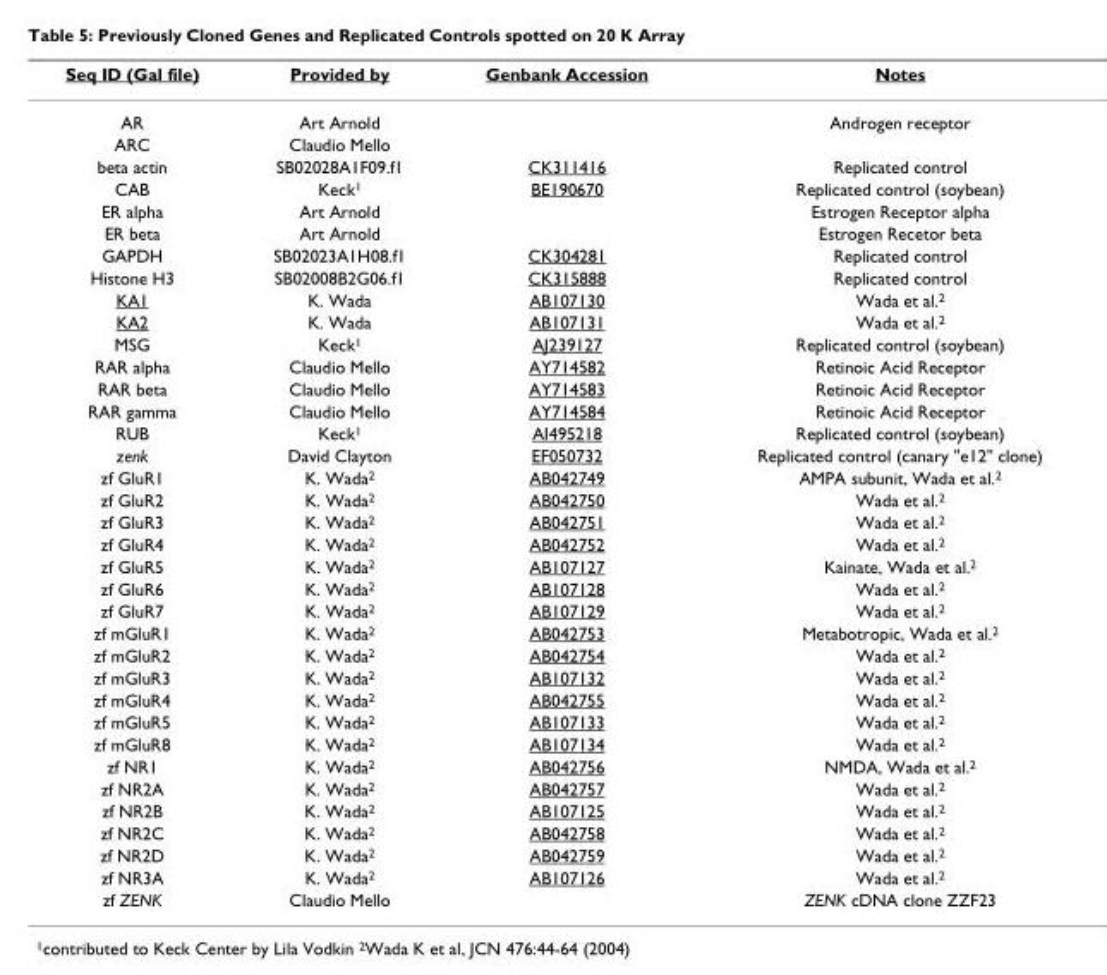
<table><thead><tr><td>Seq ID (Gal file)</td><td>Provided by</td><td>Genbank Accession</td><td>Notes</td></tr></thead><tbody><tr><td>AR</td><td>Art Arnold</td><td></td><td>Androgen receptor</td></tr><tr><td>ARC</td><td>Claudio Mello</td><td></td><td></td></tr><tr><td>beta actin</td><td>SB02028A1F09.f1</td><td>CK311416</td><td>Replicated control</td></tr><tr><td>CAB</td><td>Keck<sup>1</sup></td><td>BE190670</td><td>Replicated control (soybean)</td></tr><tr><td>ER alpha</td><td>Art Arnold</td><td></td><td>Estrogen Receptor alpha</td></tr><tr><td>ER beta</td><td>Art Arnold</td><td></td><td>Estrogen Recetor beta</td></tr><tr><td>GAPDH</td><td>SB02023A1H08.f1</td><td>CK304281</td><td>Replicated control</td></tr><tr><td>Histone H3</td><td>SB02008B2G06.f1</td><td>CK315888</td><td>Replicated control</td></tr><tr><td>KA1</td><td>K. Wada</td><td>AB107130</td><td>Wada et al.<sup>2</sup></td></tr><tr><td>KA2</td><td>K. Wada</td><td>AB107131</td><td>Wada et al.<sup>2</sup></td></tr><tr><td>MSG</td><td>Keck<sup>1</sup></td><td>AJ239127</td><td>Replicated control (soybean)</td></tr><tr><td>RAR alpha</td><td>Claudio Mello</td><td>AY714582</td><td>Retinoic Acid Receptor</td></tr><tr><td>RAR beta</td><td>Claudio Mello</td><td>AY714583</td><td>Retinoic Acid Receptor</td></tr><tr><td>RAR gamma</td><td>Claudio Mello</td><td>AY714584</td><td>Retinoic Acid Receptor</td></tr><tr><td>RUB</td><td>Keck<sup>1</sup></td><td>AI495218</td><td>Replicated control (soybean)</td></tr><tr><td>zenk</td><td>David Clayton</td><td>EF050732</td><td>Replicated control (canary &quot;e12&quot; clone)</td></tr><tr><td>zf GluR1</td><td>K. Wada<sup>2</sup></td><td>AB042749</td><td>AMPA subunit, Wada et al.<sup>2</sup></td></tr><tr><td>zf GluR2</td><td>K. Wada<sup>2</sup></td><td>AB042750</td><td>Wada et al.<sup>2</sup></td></tr><tr><td>zf GluR3</td><td>K. Wada<sup>2</sup></td><td>AB042751</td><td>Wada et al.<sup>2</sup></td></tr><tr><td>zf GluR4</td><td>K. Wada<sup>2</sup></td><td>AB042752</td><td>Wada et al.<sup>2</sup></td></tr><tr><td>zf GluR5</td><td>K. Wada<sup>2</sup></td><td>AB107127</td><td>Kainate, Wada et al.<sup>2</sup></td></tr><tr><td>zf GluR6</td><td>K. Wada<sup>2</sup></td><td>AB107128</td><td>Wada et al.<sup>2</sup></td></tr><tr><td>zf GluR7</td><td>K. Wada<sup>2</sup></td><td>AB107129</td><td>Wada et al.<sup>2</sup></td></tr><tr><td>zf mGluR1</td><td>K. Wada<sup>2</sup></td><td>AB042753</td><td>Metabotropic, Wada et al.<sup>2</sup></td></tr><tr><td>zf mGluR2</td><td>K. Wada<sup>2</sup></td><td>AB042754</td><td>Wada et al.<sup>2</sup></td></tr><tr><td>zf mGluR3</td><td>K. Wada<sup>2</sup></td><td>AB107132</td><td>Wada et al.<sup>2</sup></td></tr><tr><td>zf mGluR4</td><td>K. Wada<sup>2</sup></td><td>AB042755</td><td>Wada et al.<sup>2</sup></td></tr><tr><td>zf mGluR5</td><td>K. Wada<sup>2</sup></td><td>AB107133</td><td>Wada et al.<sup>2</sup></td></tr><tr><td>zf mGluR8</td><td>K. Wada<sup>2</sup></td><td>AB107134</td><td>Wada et al.<sup>2</sup></td></tr><tr><td>zf NR1</td><td>K. Wada<sup>2</sup></td><td>AB042756</td><td>NMDA, Wada et al.<sup>2</sup></td></tr><tr><td>zf NR2A</td><td>K. Wada<sup>2</sup></td><td>AB042757</td><td>Wada et al.<sup>2</sup></td></tr><tr><td>zf NR2B</td><td>K. Wada<sup>2</sup></td><td>AB107125</td><td>Wada et al.<sup>2</sup></td></tr><tr><td>zf NR2C</td><td>K. Wada<sup>2</sup></td><td>AB042758</td><td>Wada et al.<sup>2</sup></td></tr><tr><td>zf NR2D</td><td>K. Wada<sup>2</sup></td><td>AB042759</td><td>Wada et al.<sup>2</sup></td></tr><tr><td>zf NR3A</td><td>K. Wada<sup>2</sup></td><td>AB107126</td><td>Wada et al.<sup>2</sup></td></tr><tr><td>zf ZENK</td><td>Claudio Mello</td><td></td><td>ZENK cDNA clone ZZF23</td></tr></tbody></table>